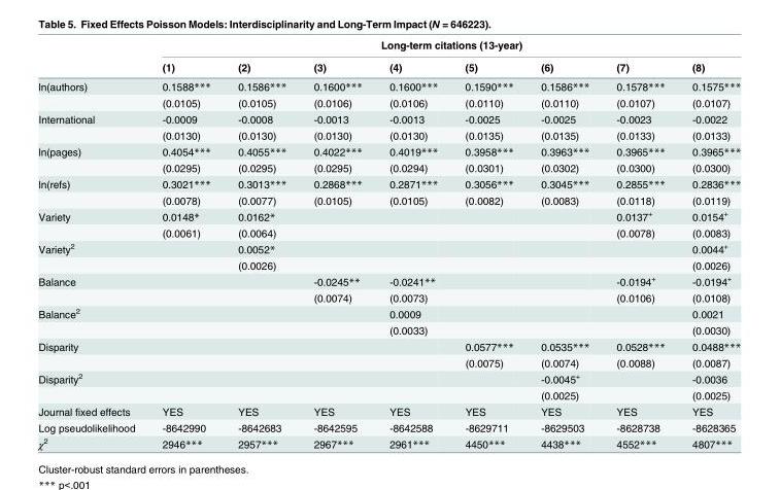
<table><thead><tr><td rowspan="2"></td><td colspan="8">Long-term citations (13-year)</td></tr><tr><td>(1)</td><td>(2)</td><td>(3)</td><td>(4)</td><td>(5)</td><td>(6)</td><td>(7)</td><td>(8)</td></tr></thead><tbody><tr><td rowspan="2">ln(authors)</td><td>0.1588***</td><td>0.1586***</td><td>0.1600***</td><td>0.1600***</td><td>0.1590***</td><td>0.1586***</td><td>0.1578***</td><td>0.1575***</td></tr><tr><td>(0.0105)</td><td>(0.0105)</td><td>(0.0106)</td><td>(0.0106)</td><td>(0.0110)</td><td>(0.0110)</td><td>(0.0107)</td><td>(0.0107)</td></tr><tr><td rowspan="2">International</td><td>-0.0009</td><td>-0.0008</td><td>-0.0013</td><td>-0.0013</td><td>-0.0025</td><td>-0.0025</td><td>-0.0023</td><td>-0.0022</td></tr><tr><td>(0.0130)</td><td>(0.0130)</td><td>(0.0130)</td><td>(0.0130)</td><td>(0.0135)</td><td>(0.0135)</td><td>(0.0133)</td><td>(0.0133)</td></tr><tr><td rowspan="2">ln(pages)</td><td>0.4054***</td><td>0.4055***</td><td>0.4022***</td><td>0.4019***</td><td>0.3958***</td><td>0.3963***</td><td>0.3965***</td><td>0.3965***</td></tr><tr><td>(0.0295)</td><td>(0.0295)</td><td>(0.0295)</td><td>(0.0294)</td><td>(0.0301)</td><td>(0.0302)</td><td>(0.0300)</td><td>(0.0300)</td></tr><tr><td rowspan="2">ln(refs)</td><td>0.3021***</td><td>0.3013***</td><td>0.2868***</td><td>0.2871***</td><td>0.3056***</td><td>0.3045***</td><td>0.2855***</td><td>0.2836***</td></tr><tr><td>(0.0078)</td><td>(0.0077)</td><td>(0.0105)</td><td>(0.0105)</td><td>(0.0082)</td><td>(0.0083)</td><td>(0.0118)</td><td>(0.0119)</td></tr><tr><td rowspan="2">Variety</td><td>0.0148*</td><td>0.0162*</td><td></td><td></td><td></td><td></td><td>0.0137<sup>+</sup></td><td>0.0154<sup>+</sup></td></tr><tr><td>(0.0061)</td><td>(0.0064)</td><td></td><td></td><td></td><td></td><td>(0.0078)</td><td>(0.0083)</td></tr><tr><td rowspan="2">Variety<sup>2</sup></td><td></td><td>0.0052*</td><td></td><td></td><td></td><td></td><td></td><td>0.0044<sup>+</sup></td></tr><tr><td></td><td>(0.0026)</td><td></td><td></td><td></td><td></td><td></td><td>(0.0026)</td></tr><tr><td rowspan="2">Balance</td><td></td><td></td><td>-0.0245**</td><td>-0.0241**</td><td></td><td></td><td>-0.0194<sup>+</sup></td><td>-0.0194<sup>+</sup></td></tr><tr><td></td><td></td><td>(0.0074)</td><td>(0.0073)</td><td></td><td></td><td>(0.0106)</td><td>(0.0108)</td></tr><tr><td rowspan="2">Balance<sup>2</sup></td><td></td><td></td><td></td><td>0.0009</td><td></td><td></td><td></td><td>0.0021</td></tr><tr><td></td><td></td><td></td><td>(0.0033)</td><td></td><td></td><td></td><td>(0.0030)</td></tr><tr><td rowspan="2">Disparity</td><td></td><td></td><td></td><td></td><td>0.0577***</td><td>0.0535***</td><td>0.0528***</td><td>0.0488***</td></tr><tr><td></td><td></td><td></td><td></td><td>(0.0075)</td><td>(0.0074)</td><td>(0.0088)</td><td>(0.0087)</td></tr><tr><td rowspan="2">Disparity<sup>2</sup></td><td></td><td></td><td></td><td></td><td></td><td>-0.0045<sup>+</sup></td><td></td><td>-0.0036</td></tr><tr><td></td><td></td><td></td><td></td><td></td><td>(0.0025)</td><td></td><td>(0.0025)</td></tr><tr><td>Journal fixed effects</td><td>YES</td><td>YES</td><td>YES</td><td>YES</td><td>YES</td><td>YES</td><td>YES</td><td>YES</td></tr><tr><td>Log pseudolikelihood</td><td>-8642990</td><td>-8642683</td><td>-8642595</td><td>-8642588</td><td>-8629711</td><td>-8629503</td><td>-8628738</td><td>-8628365</td></tr><tr><td>χ<sup>2</sup></td><td>2946***</td><td>2957***</td><td>2967***</td><td>2961***</td><td>4450***</td><td>4438***</td><td>4552***</td><td>4807***</td></tr></tbody></table>